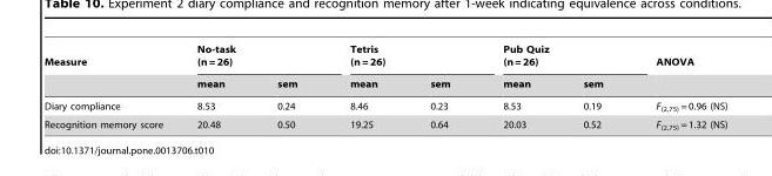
<table><thead><tr><td rowspan="2">Measure</td><td colspan="2">No-task (n = 26)</td><td colspan="2">Tetris (n = 26)</td><td colspan="2">Pub Quiz (n = 26)</td><td rowspan="2">ANOVA</td></tr><tr><td>mean</td><td>sem</td><td>mean</td><td>sem</td><td>mean</td><td>sem</td></tr></thead><tbody><tr><td>Diary compliance</td><td>8.53</td><td>0.24</td><td>8.46</td><td>0.23</td><td>8.53</td><td>0.19</td><td>F<sub>(2,75)</sub> = 0.96 (NS)</td></tr><tr><td>Recognition memory score</td><td>20.48</td><td>0.50</td><td>19.25</td><td>0.64</td><td>20.03</td><td>0.52</td><td>F<sub>(2,75)</sub> = 1.32 (NS)</td></tr></tbody></table>